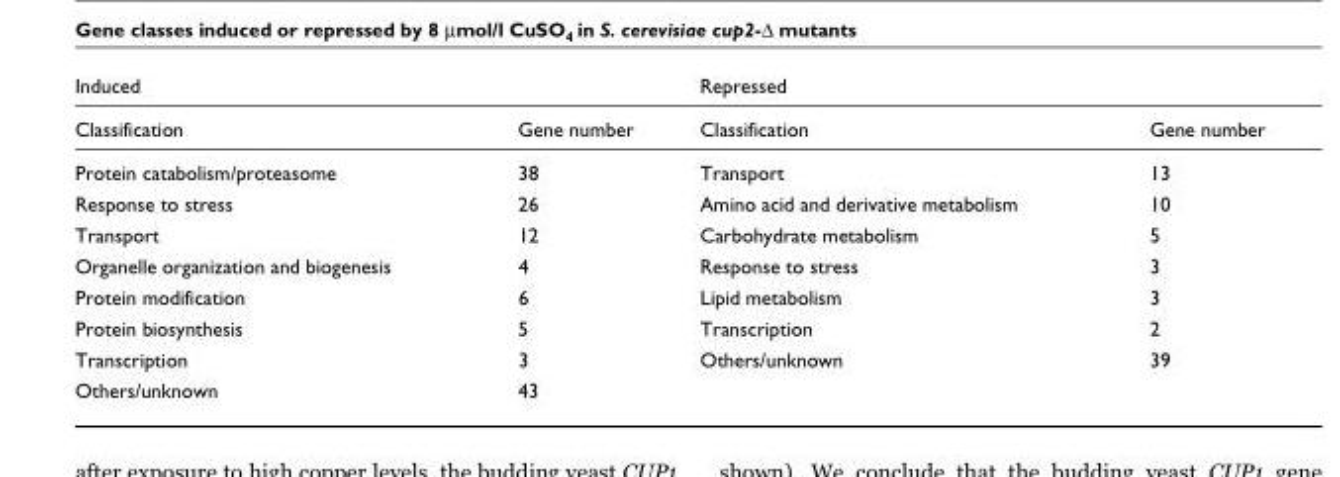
<table><thead><tr><td colspan="2">Induced</td><td colspan="2">Repressed</td></tr><tr><td>Classification</td><td>Gene number</td><td>Classification</td><td>Gene number</td></tr></thead><tbody><tr><td>Protein catabolism/proteasome</td><td>38</td><td>Transport</td><td>13</td></tr><tr><td>Response to stress</td><td>26</td><td>Amino acid and derivative metabolism</td><td>10</td></tr><tr><td>Transport</td><td>12</td><td>Carbohydrate metabolism</td><td>5</td></tr><tr><td>Organelle organization and biogenesis</td><td>4</td><td>Response to stress</td><td>3</td></tr><tr><td>Protein modification</td><td>6</td><td>Lipid metabolism</td><td>3</td></tr><tr><td>Protein biosynthesis</td><td>5</td><td>Transcription</td><td>2</td></tr><tr><td>Transcription</td><td>3</td><td>Others/unknown</td><td>39</td></tr><tr><td>Others/unknown</td><td>43</td><td></td><td></td></tr></tbody></table>